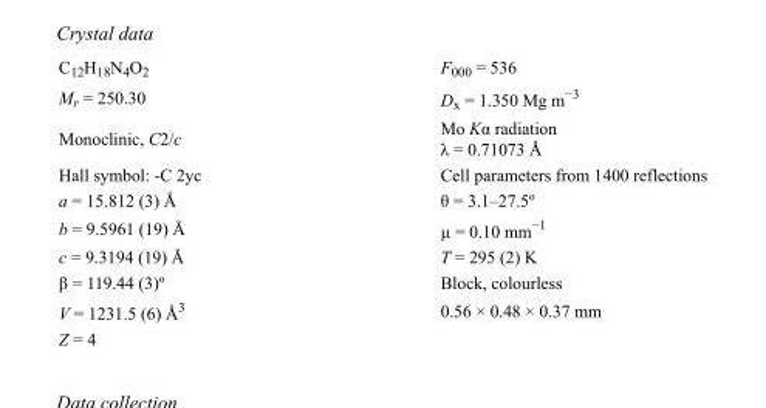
<table><tbody><tr><td>C<sub>12</sub>H<sub>18</sub>N<sub>4</sub>O<sub>2</sub></td><td>F000 = 536</td></tr><tr><td>M<sub>r</sub> = 250.30</td><td>D<sub>x</sub> = 1.350 Mg m<sup>−3</sup></td></tr><tr><td>Monoclinic, C2/c</td><td>Mo Kα radiation λ = 0.71073 Å</td></tr><tr><td>Hall symbol: -C 2yc</td><td>Cell parameters from 1400 reflections</td></tr><tr><td>a = 15.812 (3) Å</td><td>θ = 3.1–27.5º</td></tr><tr><td>b = 9.5961 (19) Å</td><td>µ = 0.10 mm<sup>−1</sup></td></tr><tr><td>c = 9.3194 (19) Å</td><td>T = 295 (2) K</td></tr><tr><td>β = 119.44 (3)º</td><td>Block, colourless</td></tr><tr><td>V = 1231.5 (6) Å<sup>3</sup></td><td>0.56 × 0.48 × 0.37 mm</td></tr><tr><td>Z = 4</td><td></td></tr></tbody></table>